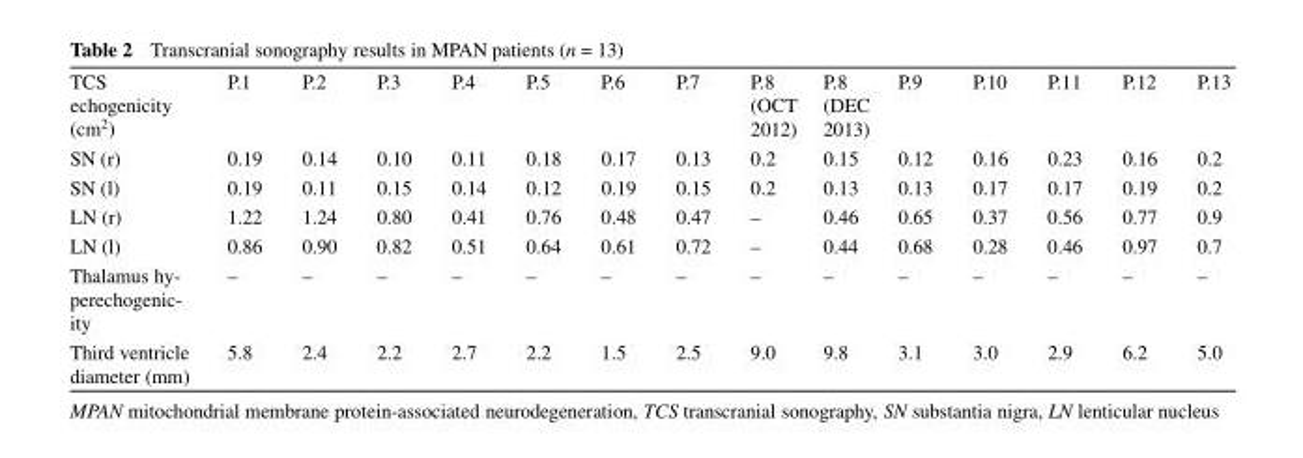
<table><tbody><tr><td>TCS echogenicity (cm<sup>2</sup>)</td><td>P.1</td><td>P.2</td><td>P.3</td><td>P.4</td><td>P.5</td><td>P.6</td><td>P.7</td><td>P.8 (OCT 2012)</td><td>P.8 (DEC 2013)</td><td>P.9</td><td>P.10</td><td>P.11</td><td>P.12</td><td>P.13</td></tr><tr><td>SN (r)</td><td>0.19</td><td>0.14</td><td>0.10</td><td>0.11</td><td>0.18</td><td>0.17</td><td>0.13</td><td>0.2</td><td>0.15</td><td>0.12</td><td>0.16</td><td>0.23</td><td>0.16</td><td>0.2</td></tr><tr><td>SN (l)</td><td>0.19</td><td>0.11</td><td>0.15</td><td>0.14</td><td>0.12</td><td>0.19</td><td>0.15</td><td>0.2</td><td>0.13</td><td>0.13</td><td>0.17</td><td>0.17</td><td>0.19</td><td>0.2</td></tr><tr><td>LN (r)</td><td>1.22</td><td>1.24</td><td>0.80</td><td>0.41</td><td>0.76</td><td>0.48</td><td>0.47</td><td>–</td><td>0.46</td><td>0.65</td><td>0.37</td><td>0.56</td><td>0.77</td><td>0.9</td></tr><tr><td>LN (l)</td><td>0.86</td><td>0.90</td><td>0.82</td><td>0.51</td><td>0.64</td><td>0.61</td><td>0.72</td><td>–</td><td>0.44</td><td>0.68</td><td>0.28</td><td>0.46</td><td>0.97</td><td>0.7</td></tr><tr><td>Thalamus hy- perechogenic- ity</td><td>–</td><td>–</td><td>–</td><td>–</td><td>–</td><td>–</td><td>–</td><td>–</td><td>–</td><td>–</td><td>–</td><td>–</td><td>–</td><td>–</td></tr><tr><td>Third ventricle diameter (mm)</td><td>5.8</td><td>2.4</td><td>2.2</td><td>2.7</td><td>2.2</td><td>1.5</td><td>2.5</td><td>9.0</td><td>9.8</td><td>3.1</td><td>3.0</td><td>2.9</td><td>6.2</td><td>5.0</td></tr></tbody></table>